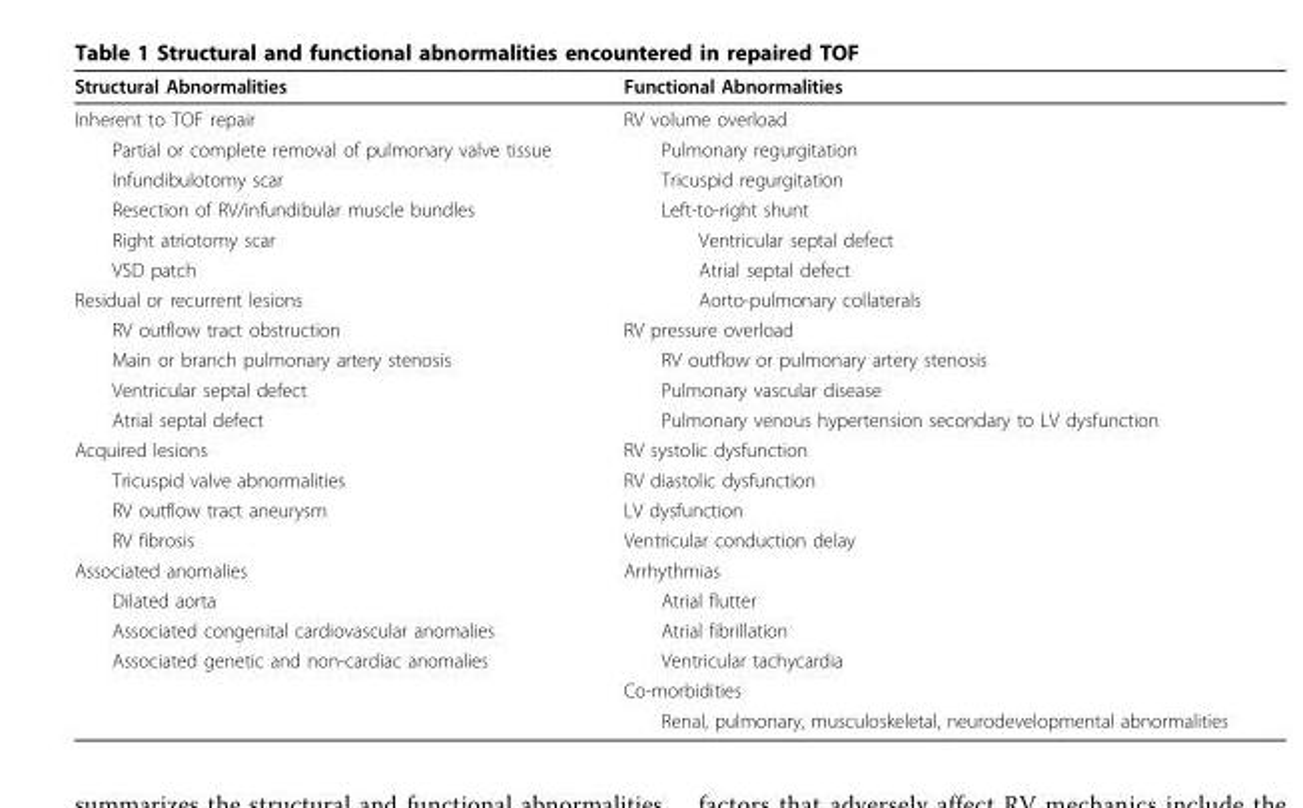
<table><thead><tr><td>Structural Abnormalities</td><td>Functional Abnormalities</td></tr></thead><tbody><tr><td>Inherent to TOF repair</td><td>RV volume overload</td></tr><tr><td>Partial or complete removal of pulmonary valve tissue</td><td>Pulmonary regurgitation</td></tr><tr><td>Infundibulotomy scar</td><td>Tricuspid regurgitation</td></tr><tr><td>Resection of RV/infundibular muscle bundles</td><td>Left-to-right shunt</td></tr><tr><td>Right atriotomy scar</td><td>Ventricular septal defect</td></tr><tr><td>VSD patch</td><td>Atrial septal defect</td></tr><tr><td>Residual or recurrent lesions</td><td>Aorto-pulmonary collaterals</td></tr><tr><td>RV outflow tract obstruction</td><td>RV pressure overload</td></tr><tr><td>Main or branch pulmonary artery stenosis</td><td>RV outflow or pulmonary artery stenosis</td></tr><tr><td>Ventricular septal defect</td><td>Pulmonary vascular disease</td></tr><tr><td>Atrial septal defect</td><td>Pulmonary venous hypertension secondary to LV dysfunction</td></tr><tr><td>Acquired lesions</td><td>RV systolic dysfunction</td></tr><tr><td>Tricuspid valve abnormalities</td><td>RV diastolic dysfunction</td></tr><tr><td>RV outflow tract aneurysm</td><td>LV dysfunction</td></tr><tr><td>RV fibrosis</td><td>Ventricular conduction delay</td></tr><tr><td>Associated anomalies</td><td>Arrhythmias</td></tr><tr><td>Dilated aorta</td><td>Atrial flutter</td></tr><tr><td>Associated congenital cardiovascular anomalies</td><td>Atrial fibrillation</td></tr><tr><td rowspan="3">Associated genetic and non-cardiac anomalies</td><td>Ventricular tachycardia</td></tr><tr><td>Co-morbidities</td></tr><tr><td>Renal, pulmonary, musculoskeletal, neurodevelopmental abnormalities</td></tr></tbody></table>